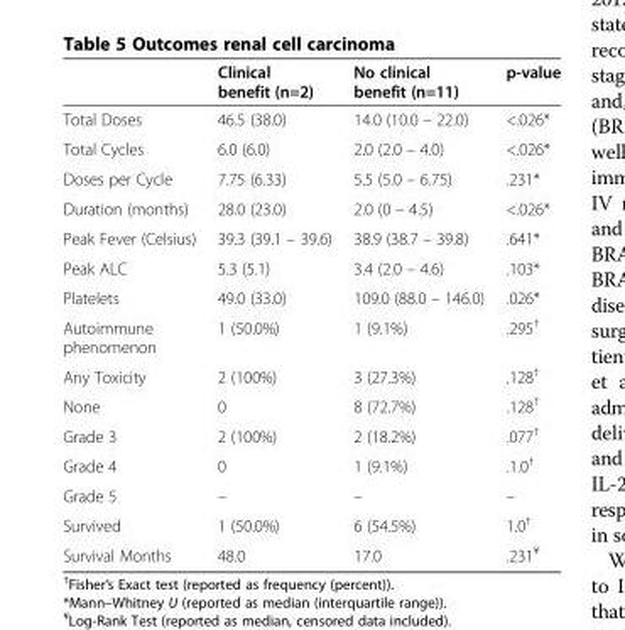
<table><thead><tr><td></td><td>Clinical benefit (n=2)</td><td>No clinical benefit (n=11)</td><td>p-value</td></tr></thead><tbody><tr><td>Total Doses</td><td>46.5 (38.0)</td><td>14.0 (10.0 – 22.0)</td><td>&lt;.026*</td></tr><tr><td>Total Cycles</td><td>6.0 (6.0)</td><td>2.0 (2.0 – 4.0)</td><td>&lt;.026*</td></tr><tr><td>Doses per Cycle</td><td>7.75 (6.33)</td><td>5.5 (5.0 – 6.75)</td><td>.231*</td></tr><tr><td>Duration (months)</td><td>28.0 (23.0)</td><td>2.0 (0 – 4.5)</td><td>&lt;.026*</td></tr><tr><td>Peak Fever (Celsius)</td><td>39.3 (39.1 – 39.6)</td><td>38.9 (38.7 – 39.8)</td><td>.641*</td></tr><tr><td>Peak ALC</td><td>5.3 (5.1)</td><td>3.4 (2.0 – 4.6)</td><td>.103*</td></tr><tr><td>Platelets</td><td>49.0 (33.0)</td><td>109.0 (88.0 – 146.0)</td><td>.026*</td></tr><tr><td>Autoimmune phenomenon</td><td>1 (50.0%)</td><td>1 (9.1%)</td><td>.295<sup>†</sup></td></tr><tr><td>Any Toxicity</td><td>2 (100%)</td><td>3 (27.3%)</td><td>.128<sup>†</sup></td></tr><tr><td>None</td><td>0</td><td>8 (72.7%)</td><td>.128<sup>†</sup></td></tr><tr><td>Grade 3</td><td>2 (100%)</td><td>2 (18.2%)</td><td>.077<sup>†</sup></td></tr><tr><td>Grade 4</td><td>0</td><td>1 (9.1%)</td><td>.1.0<sup>†</sup></td></tr><tr><td>Grade 5</td><td>–</td><td>–</td><td>–</td></tr><tr><td>Survived</td><td>1 (50.0%)</td><td>6 (54.5%)</td><td>1.0<sup>†</sup></td></tr><tr><td>Survival Months</td><td>48.0</td><td>17.0</td><td>.231<sup>¥</sup></td></tr></tbody></table>